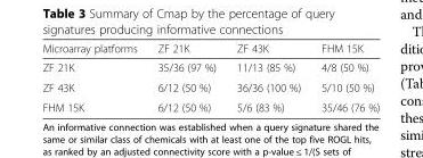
<table><thead><tr><td>Microarray platforms</td><td>ZF 21K</td><td>ZF 43K</td><td>FHM 15K</td></tr></thead><tbody><tr><td>ZF 21K</td><td>35/36 (97 %)</td><td>11/13 (85 %)</td><td>4/8 (50 %)</td></tr><tr><td>ZF 43K</td><td>6/12 (50 %)</td><td>36/36 (100 %)</td><td>5/10 (50 %)</td></tr><tr><td>FHM 15K</td><td>6/12 (50 %)</td><td>5/6 (83 %)</td><td>35/46 (76 %)</td></tr></tbody></table>